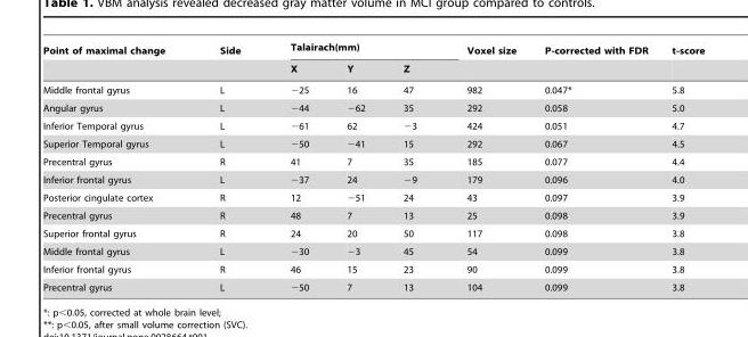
<table><thead><tr><td rowspan="2">Point of maximal change</td><td rowspan="2">Side</td><td colspan="3">Talairach(mm)</td><td rowspan="2">Voxel size</td><td rowspan="2">P-corrected with FDR</td><td rowspan="2">t-score</td></tr><tr><td>X</td><td>Y</td><td>Z</td></tr></thead><tbody><tr><td>Middle frontal gyrus</td><td>L</td><td>−25</td><td>16</td><td>47</td><td>982</td><td>0.047*</td><td>5.8</td></tr><tr><td>Angular gyrus</td><td>L</td><td>−44</td><td>−62</td><td>35</td><td>292</td><td>0.058</td><td>5.0</td></tr><tr><td>Inferior Temporal gyrus</td><td>L</td><td>−61</td><td>62</td><td>−3</td><td>424</td><td>0.051</td><td>4.7</td></tr><tr><td>Superior Temporal gyrus</td><td>L</td><td>−50</td><td>−41</td><td>15</td><td>292</td><td>0.067</td><td>4.5</td></tr><tr><td>Precentral gyrus</td><td>R</td><td>41</td><td>7</td><td>35</td><td>185</td><td>0.077</td><td>4.4</td></tr><tr><td>Inferior frontal gyrus</td><td>L</td><td>−37</td><td>24</td><td>−9</td><td>179</td><td>0.096</td><td>4.0</td></tr><tr><td>Posterior cingulate cortex</td><td>R</td><td>12</td><td>−51</td><td>24</td><td>43</td><td>0.097</td><td>3.9</td></tr><tr><td>Precentral gyrus</td><td>R</td><td>48</td><td>7</td><td>13</td><td>25</td><td>0.098</td><td>3.9</td></tr><tr><td>Superior frontal gyrus</td><td>R</td><td>24</td><td>20</td><td>50</td><td>117</td><td>0.098</td><td>3.8</td></tr><tr><td>Middle frontal gyrus</td><td>L</td><td>−30</td><td>−3</td><td>45</td><td>54</td><td>0.099</td><td>3.8</td></tr><tr><td>Inferior frontal gyrus</td><td>R</td><td>46</td><td>15</td><td>23</td><td>90</td><td>0.099</td><td>3.8</td></tr><tr><td>Precentral gyrus</td><td>L</td><td>−50</td><td>7</td><td>13</td><td>104</td><td>0.099</td><td>3.8</td></tr></tbody></table>